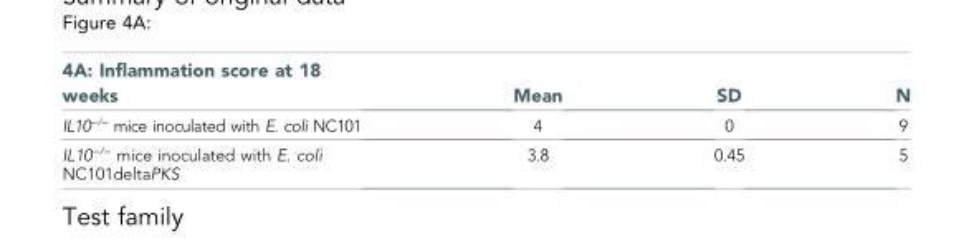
<table><thead><tr><td>4A: Inflammation score at 18 weeks</td><td>Mean</td><td>SD</td><td>N</td></tr></thead><tbody><tr><td>IL10<sup>−/−</sup> mice inoculated with E. coli NC101</td><td>4</td><td>0</td><td>9</td></tr><tr><td>IL10<sup>−/−</sup> mice inoculated with E. coli NC101deltaPKS</td><td>3.8</td><td>0.45</td><td>5</td></tr></tbody></table>